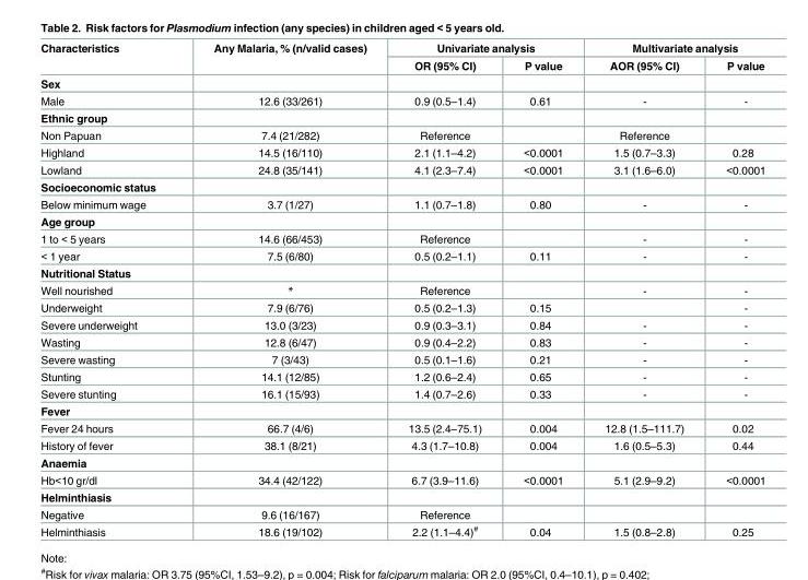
<table><thead><tr><td rowspan="2">Characteristics</td><td rowspan="2">Any Malaria, % (n/valid cases)</td><td colspan="2">Univariate analysis</td><td colspan="2">Multivariate analysis</td></tr><tr><td>OR (95% CI)</td><td>P value</td><td>AOR (95% CI)</td><td>P value</td></tr></thead><tbody><tr><td colspan="6">Sex</td></tr><tr><td>Male</td><td>12.6 (33/261)</td><td>0.9 (0.5–1.4)</td><td>0.61</td><td>-</td><td>-</td></tr><tr><td colspan="6">Ethnic group</td></tr><tr><td>Non Papuan</td><td>7.4 (21/282)</td><td>Reference</td><td></td><td>Reference</td><td></td></tr><tr><td>Highland</td><td>14.5 (16/110)</td><td>2.1 (1.1–4.2)</td><td>&lt;0.0001</td><td>1.5 (0.7–3.3)</td><td>0.28</td></tr><tr><td>Lowland</td><td>24.8 (35/141)</td><td>4.1 (2.3–7.4)</td><td>&lt;0.0001</td><td>3.1 (1.6–6.0)</td><td>&lt;0.0001</td></tr><tr><td colspan="6">Socioeconomic status</td></tr><tr><td>Below minimum wage</td><td>3.7 (1/27)</td><td>1.1 (0.7–1.8)</td><td>0.80</td><td>-</td><td>-</td></tr><tr><td colspan="6">Age group</td></tr><tr><td>1 to &lt; 5 years</td><td>14.6 (66/453)</td><td>Reference</td><td></td><td>-</td><td>-</td></tr><tr><td>&lt; 1 year</td><td>7.5 (6/80)</td><td>0.5 (0.2–1.1)</td><td>0.11</td><td>-</td><td>-</td></tr><tr><td colspan="6">Nutritional Status</td></tr><tr><td>Well nourished</td><td>*</td><td>Reference</td><td></td><td>-</td><td>-</td></tr><tr><td>Underweight</td><td>7.9 (6/76)</td><td>0.5 (0.2–1.3)</td><td>0.15</td><td></td><td>-</td></tr><tr><td>Severe underweight</td><td>13.0 (3/23)</td><td>0.9 (0.3–3.1)</td><td>0.84</td><td>-</td><td>-</td></tr><tr><td>Wasting</td><td>12.8 (6/47)</td><td>0.9 (0.4–2.2)</td><td>0.83</td><td>-</td><td>-</td></tr><tr><td>Severe wasting</td><td>7 (3/43)</td><td>0.5 (0.1–1.6)</td><td>0.21</td><td>-</td><td>-</td></tr><tr><td>Stunting</td><td>14.1 (12/85)</td><td>1.2 (0.6–2.4)</td><td>0.65</td><td>-</td><td>-</td></tr><tr><td>Severe stunting</td><td>16.1 (15/93)</td><td>1.4 (0.7–2.6)</td><td>0.33</td><td>-</td><td>-</td></tr><tr><td colspan="6">Fever</td></tr><tr><td>Fever 24 hours</td><td>66.7 (4/6)</td><td>13.5 (2.4–75.1)</td><td>0.004</td><td>12.8 (1.5–111.7)</td><td>0.02</td></tr><tr><td>History of fever</td><td>38.1 (8/21)</td><td>4.3 (1.7–10.8)</td><td>0.004</td><td>1.6 (0.5–5.3)</td><td>0.44</td></tr><tr><td colspan="6">Anaemia</td></tr><tr><td>Hb&lt;10 gr/dl</td><td>34.4 (42/122)</td><td>6.7 (3.9–11.6)</td><td>&lt;0.0001</td><td>5.1 (2.9–9.2)</td><td>&lt;0.0001</td></tr><tr><td colspan="6">Helminthiasis</td></tr><tr><td>Negative</td><td>9.6 (16/167)</td><td>Reference</td><td></td><td></td><td></td></tr><tr><td>Helminthiasis</td><td>18.6 (19/102)</td><td>2.2 (1.1–4.4)<sup>#</sup></td><td>0.04</td><td>1.5 (0.8–2.8)</td><td>0.25</td></tr></tbody></table>